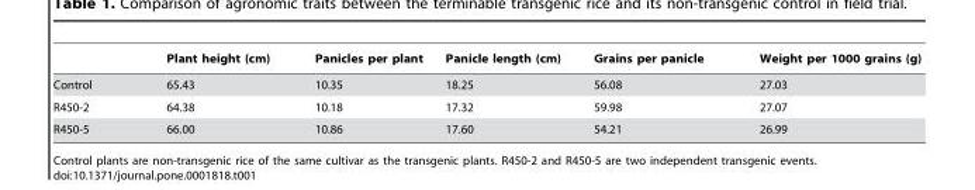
<table><thead><tr><td></td><td>Plant height (cm)</td><td>Panicles per plant</td><td>Panicle length (cm)</td><td>Grains per panicle</td><td>Weight per 1000 grains (g)</td></tr></thead><tbody><tr><td>Control</td><td>65.43</td><td>10.35</td><td>18.25</td><td>56.08</td><td>27.03</td></tr><tr><td>R450-2</td><td>64.38</td><td>10.18</td><td>17.32</td><td>59.98</td><td>27.07</td></tr><tr><td>R450-5</td><td>66.00</td><td>10.86</td><td>17.60</td><td>54.21</td><td>26.99</td></tr></tbody></table>